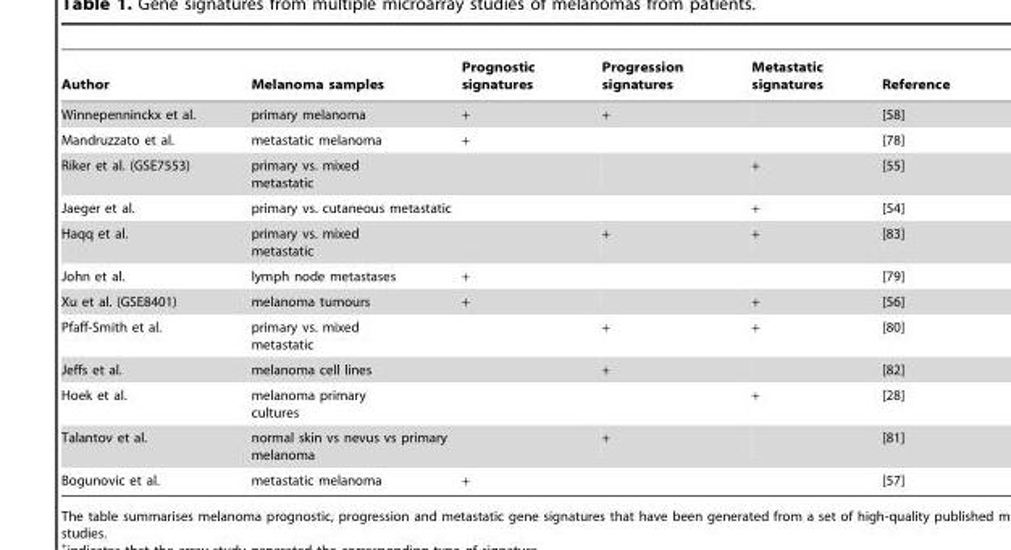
<table><thead><tr><td>Author</td><td>Melanoma samples</td><td>Prognostic signatures</td><td>Progression signatures</td><td>Metastatic signatures</td><td>Reference</td></tr></thead><tbody><tr><td>Winnepenninckx et al.</td><td>primary melanoma</td><td>+</td><td>+</td><td></td><td>[58]</td></tr><tr><td>Mandruzzato et al.</td><td>metastatic melanoma</td><td>+</td><td></td><td></td><td>[78]</td></tr><tr><td>Riker et al. (GSE7553)</td><td>primary vs. mixed metastatic</td><td></td><td></td><td>+</td><td>[55]</td></tr><tr><td>Jaeger et al.</td><td>primary vs. cutaneous metastatic</td><td></td><td></td><td>+</td><td>[54]</td></tr><tr><td>Haqq et al.</td><td>primary vs. mixed metastatic</td><td></td><td>+</td><td>+</td><td>[83]</td></tr><tr><td>John et al.</td><td>lymph node metastases</td><td>+</td><td></td><td></td><td>[79]</td></tr><tr><td>Xu et al. (GSE8401)</td><td>melanoma tumours</td><td>+</td><td></td><td>+</td><td>[56]</td></tr><tr><td>Pfaff-Smith et al.</td><td>primary vs. mixed metastatic</td><td></td><td>+</td><td>+</td><td>[80]</td></tr><tr><td>Jeffs et al.</td><td>melanoma cell lines</td><td></td><td>+</td><td></td><td>[82]</td></tr><tr><td>Hoek et al.</td><td>melanoma primary cultures</td><td></td><td></td><td>+</td><td>[28]</td></tr><tr><td>Talantov et al.</td><td>normal skin vs nevus vs primary melanoma</td><td></td><td>+</td><td></td><td>[81]</td></tr><tr><td>Bogunovic et al.</td><td>metastatic melanoma</td><td>+</td><td></td><td></td><td>[57]</td></tr></tbody></table>